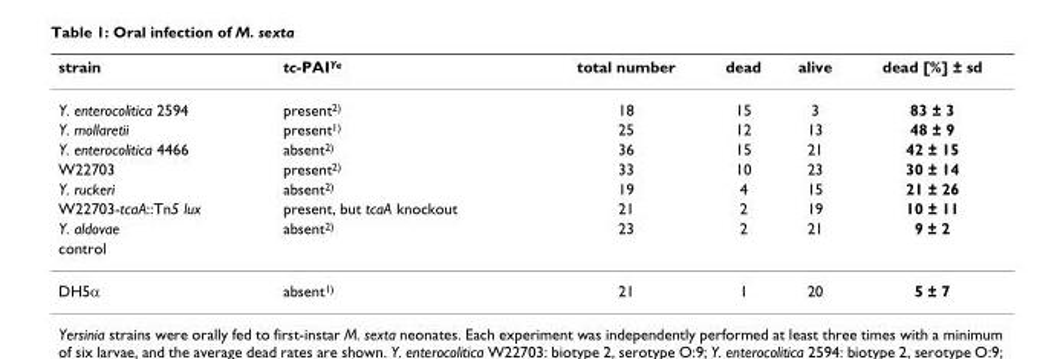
<table><thead><tr><td>strain</td><td>tc-PAI<sup>Ye</sup></td><td>total number</td><td>dead</td><td>alive</td><td>dead [%] ± sd</td></tr></thead><tbody><tr><td>Y. enterocolitica 2594</td><td>present<sup>2)</sup></td><td>18</td><td>15</td><td>3</td><td>83 ± 3</td></tr><tr><td>Y. mollaretii</td><td>present<sup>1)</sup></td><td>25</td><td>12</td><td>13</td><td>48 ± 9</td></tr><tr><td>Y. enterocolitica 4466</td><td>absent<sup>2)</sup></td><td>36</td><td>15</td><td>21</td><td>42 ± 15</td></tr><tr><td>W22703</td><td>present<sup>2)</sup></td><td>33</td><td>10</td><td>23</td><td>30 ± 14</td></tr><tr><td>Y. ruckeri</td><td>absent<sup>2)</sup></td><td>19</td><td>4</td><td>15</td><td>21 ± 26</td></tr><tr><td>W22703-tcaA::Tn5 lux</td><td>present, but tcaA knockout</td><td>21</td><td>2</td><td>19</td><td>10 ± 11</td></tr><tr><td>Y. aldovae</td><td>absent<sup>2)</sup></td><td>23</td><td>2</td><td>21</td><td>9 ± 2</td></tr><tr><td colspan="6">control</td></tr><tr><td>DH5α</td><td>absent<sup>1)</sup></td><td>21</td><td>1</td><td>20</td><td>5 ± 7</td></tr></tbody></table>